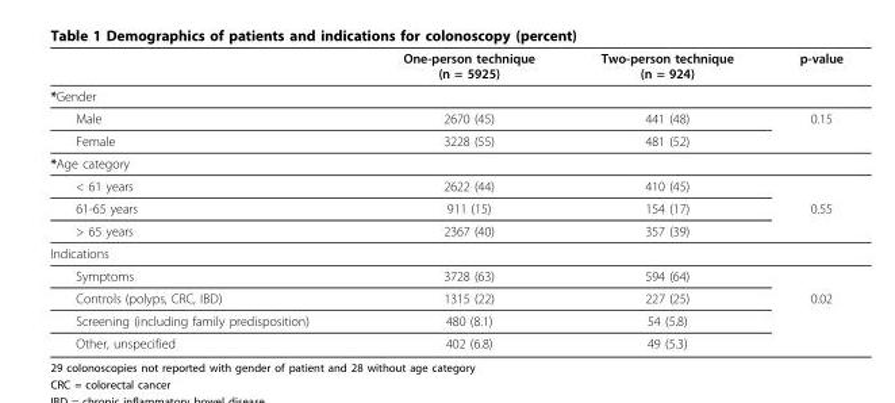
<table><thead><tr><td></td><td>One-person technique (n = 5925)</td><td>Two-person technique (n = 924)</td><td>p-value</td></tr></thead><tbody><tr><td colspan="4">*Gender</td></tr><tr><td>Male</td><td>2670 (45)</td><td>441 (48)</td><td>0.15</td></tr><tr><td>Female</td><td>3228 (55)</td><td>481 (52)</td><td></td></tr><tr><td colspan="4">*Age category</td></tr><tr><td>&lt; 61 years</td><td>2622 (44)</td><td>410 (45)</td><td></td></tr><tr><td>61-65 years</td><td>911 (15)</td><td>154 (17)</td><td>0.55</td></tr><tr><td>&gt; 65 years</td><td>2367 (40)</td><td>357 (39)</td><td></td></tr><tr><td colspan="4">Indications</td></tr><tr><td>Symptoms</td><td>3728 (63)</td><td>594 (64)</td><td></td></tr><tr><td>Controls (polyps, CRC, IBD)</td><td>1315 (22)</td><td>227 (25)</td><td>0.02</td></tr><tr><td>Screening (including family predisposition)</td><td>480 (8.1)</td><td>54 (5.8)</td><td></td></tr><tr><td>Other, unspecified</td><td>402 (6.8)</td><td>49 (5.3)</td><td></td></tr></tbody></table>